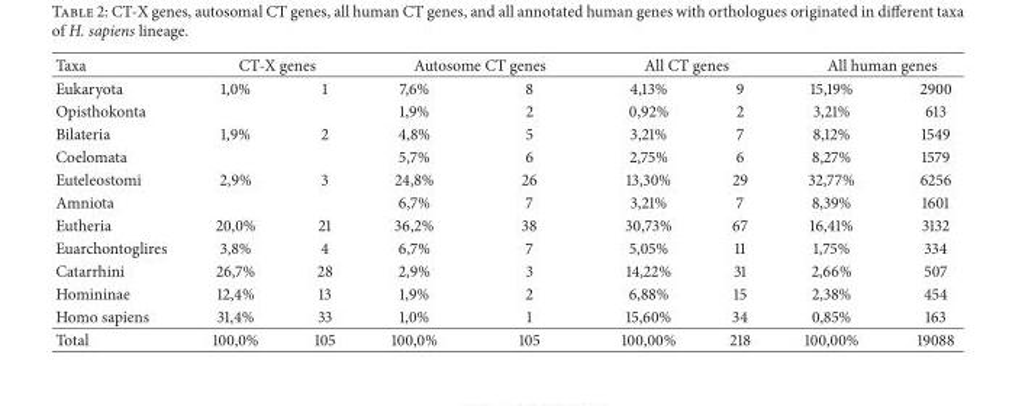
<table><thead><tr><td rowspan="2">Taxa Eukaryota</td><td colspan="2">CT-X genes</td><td colspan="2">Autosome CT genes</td><td colspan="2">All CT genes</td><td colspan="2">All human genes</td></tr><tr><td>1,0%</td><td>1</td><td>7,6%</td><td>8</td><td>4,13%</td><td>9</td><td>15,19%</td><td>2900</td></tr></thead><tbody><tr><td>Opisthokonta</td><td></td><td></td><td>1,9%</td><td>2</td><td>0,92%</td><td>2</td><td>3,21%</td><td>613</td></tr><tr><td>Bilateria</td><td>1,9%</td><td>2</td><td>4,8%</td><td>5</td><td>3,21%</td><td>7</td><td>8,12%</td><td>1549</td></tr><tr><td>Coelomata</td><td></td><td></td><td>5,7%</td><td>6</td><td>2,75%</td><td>6</td><td>8,27%</td><td>1579</td></tr><tr><td>Euteleostomi</td><td>2,9%</td><td>3</td><td>24,8%</td><td>26</td><td>13,30%</td><td>29</td><td>32,77%</td><td>6256</td></tr><tr><td>Amniota</td><td></td><td></td><td>6,7%</td><td>7</td><td>3,21%</td><td>7</td><td>8,39%</td><td>1601</td></tr><tr><td>Eutheria</td><td>20,0%</td><td>21</td><td>36,2%</td><td>38</td><td>30,73%</td><td>67</td><td>16,41%</td><td>3132</td></tr><tr><td>Euarchontoglires</td><td>3,8%</td><td>4</td><td>6,7%</td><td>7</td><td>5,05%</td><td>11</td><td>1,75%</td><td>334</td></tr><tr><td>Catarrhini</td><td>26,7%</td><td>28</td><td>2,9%</td><td>3</td><td>14,22%</td><td>31</td><td>2,66%</td><td>507</td></tr><tr><td>Homininae</td><td>12,4%</td><td>13</td><td>1,9%</td><td>2</td><td>6,88%</td><td>15</td><td>2,38%</td><td>454</td></tr><tr><td>Homo sapiens</td><td>31,4%</td><td>33</td><td>1,0%</td><td>1</td><td>15,60%</td><td>34</td><td>0,85%</td><td>163</td></tr><tr><td>Total</td><td>100,0%</td><td>105</td><td>100,0%</td><td>105</td><td>100,00%</td><td>218</td><td>100,00%</td><td>19088</td></tr></tbody></table>